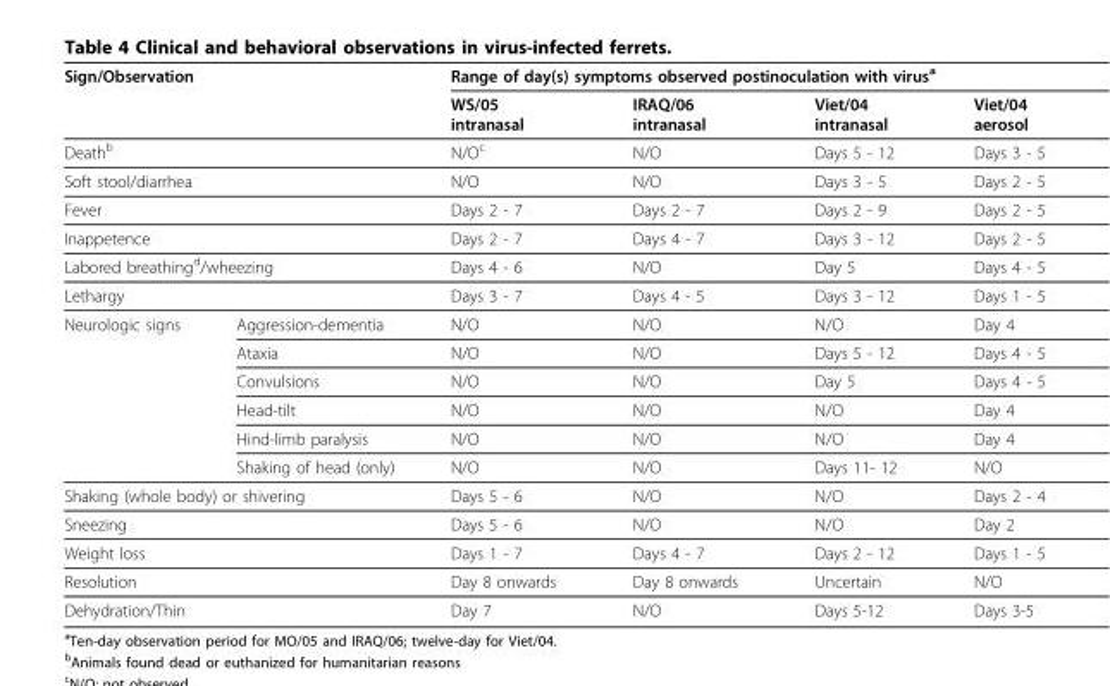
<table><thead><tr><td colspan="2">Sign/Observation</td><td colspan="4">Range of day(s) symptoms observed postinoculation with virus<sup>a</sup></td></tr><tr><td></td><td></td><td>WS/05 intranasal</td><td>IRAQ/06 intranasal</td><td>Viet/04 intranasal</td><td>Viet/04 aerosol</td></tr></thead><tbody><tr><td colspan="2">Death<sup>b</sup></td><td>N/O<sup>c</sup></td><td>N/O</td><td>Days 5 - 12</td><td>Days 3 - 5</td></tr><tr><td colspan="2">Soft stool/diarrhea</td><td>N/O</td><td>N/O</td><td>Days 3 - 5</td><td>Days 2 - 5</td></tr><tr><td colspan="2">Fever</td><td>Days 2 - 7</td><td>Days 2 - 7</td><td>Days 2 - 9</td><td>Days 2 - 5</td></tr><tr><td colspan="2">Inappetence</td><td>Days 2 - 7</td><td>Days 4 - 7</td><td>Days 3 - 12</td><td>Days 2 - 5</td></tr><tr><td colspan="2">Labored breathing<sup>d</sup>/wheezing</td><td>Days 4 - 6</td><td>N/O</td><td>Day 5</td><td>Days 4 - 5</td></tr><tr><td colspan="2">Lethargy</td><td>Days 3 - 7</td><td>Days 4 - 5</td><td>Days 3 - 12</td><td>Days 1 - 5</td></tr><tr><td rowspan="6">Neurologic signs</td><td>Aggression-dementia</td><td>N/O</td><td>N/O</td><td>N/O</td><td>Day 4</td></tr><tr><td>Ataxia</td><td>N/O</td><td>N/O</td><td>Days 5 - 12</td><td>Days 4 - 5</td></tr><tr><td>Convulsions</td><td>N/O</td><td>N/O</td><td>Day 5</td><td>Days 4 - 5</td></tr><tr><td>Head-tilt</td><td>N/O</td><td>N/O</td><td>N/O</td><td>Day 4</td></tr><tr><td>Hind-limb paralysis</td><td>N/O</td><td>N/O</td><td>N/O</td><td>Day 4</td></tr><tr><td>Shaking of head (only)</td><td>N/O</td><td>N/O</td><td>Days 11- 12</td><td>N/O</td></tr><tr><td colspan="2">Shaking (whole body) or shivering</td><td>Days 5 - 6</td><td>N/O</td><td>N/O</td><td>Days 2 - 4</td></tr><tr><td colspan="2">Sneezing</td><td>Days 5 - 6</td><td>N/O</td><td>N/O</td><td>Day 2</td></tr><tr><td colspan="2">Weight loss</td><td>Days 1 - 7</td><td>Days 4 - 7</td><td>Days 2 - 12</td><td>Days 1 - 5</td></tr><tr><td colspan="2">Resolution</td><td>Day 8 onwards</td><td>Day 8 onwards</td><td>Uncertain</td><td>N/O</td></tr><tr><td colspan="2">Dehydration/Thin</td><td>Day 7</td><td>N/O</td><td>Days 5-12</td><td>Days 3-5</td></tr></tbody></table>